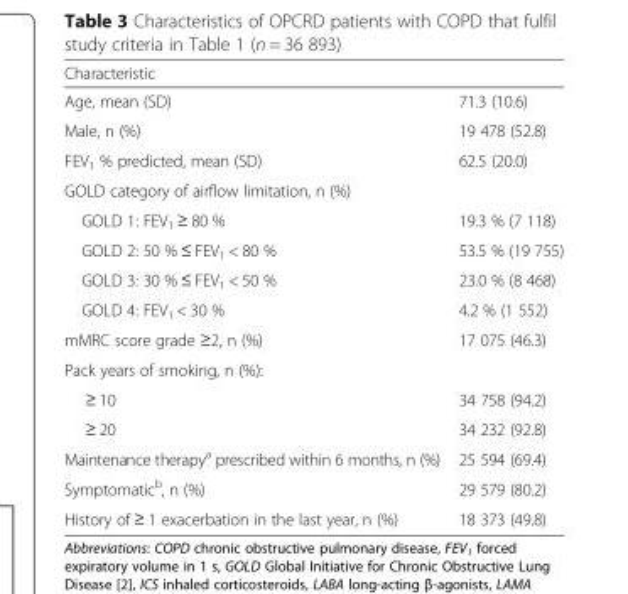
<table><thead><tr><td colspan="2">Characteristic</td></tr><tr><td>Age, mean (SD)</td><td>71.3 (10.6)</td></tr></thead><tbody><tr><td>Male, n (%)</td><td>19 478 (52.8)</td></tr><tr><td>FEV<sub>1</sub> % predicted, mean (SD)</td><td>62.5 (20.0)</td></tr><tr><td colspan="2">GOLD category of airflow limitation, n (%)</td></tr><tr><td>GOLD 1: FEV<sub>1</sub> ≥ 80 %</td><td>19.3 % (7 118)</td></tr><tr><td>GOLD 2: 50 % ≤ FEV<sub>1</sub> &lt; 80 %</td><td>53.5 % (19 755)</td></tr><tr><td>GOLD 3: 30 % ≤ FEV<sub>1</sub> &lt; 50 %</td><td>23.0 % (8 468)</td></tr><tr><td>GOLD 4: FEV<sub>1</sub> &lt; 30 %</td><td>4.2 % (1 552)</td></tr><tr><td>mMRC score grade ≥2, n (%)</td><td>17 075 (46.3)</td></tr><tr><td colspan="2">Pack years of smoking, n (%):</td></tr><tr><td>≥ 10</td><td>34 758 (94.2)</td></tr><tr><td>≥ 20</td><td>34 232 (92.8)</td></tr><tr><td>Maintenance therapy<sup>a</sup> prescribed within 6 months, n (%)</td><td>25 594 (69.4)</td></tr><tr><td>Symptomatic<sup>b</sup>, n (%)</td><td>29 579 (80.2)</td></tr><tr><td>History of ≥ 1 exacerbation in the last year, n (%)</td><td>18 373 (49.8)</td></tr></tbody></table>